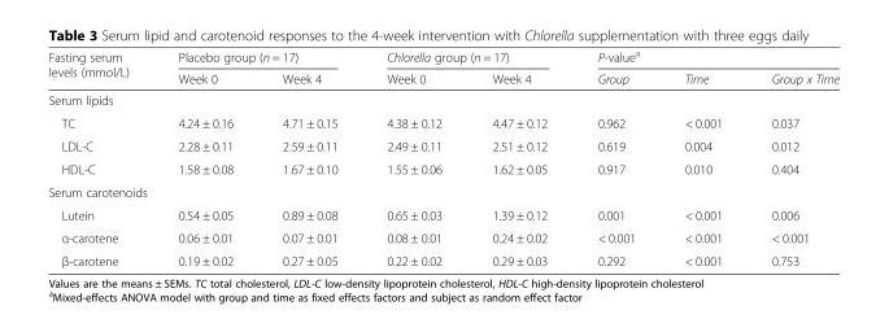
<table><thead><tr><td rowspan="2">Fasting serum levels (mmol/L)</td><td colspan="2">Placebo group (n = 17)</td><td colspan="2">Chlorella group (n = 17)</td><td colspan="3">P-value<sup>a</sup></td></tr><tr><td>Week 0</td><td>Week 4</td><td>Week 0</td><td>Week 4</td><td>Group</td><td>Time</td><td>Group x Time</td></tr></thead><tbody><tr><td colspan="8">Serum lipids</td></tr><tr><td>TC</td><td>4.24 ± 0.16</td><td>4.71 ± 0.15</td><td>4.38 ± 0.12</td><td>4.47 ± 0.12</td><td>0.962</td><td>&lt; 0.001</td><td>0.037</td></tr><tr><td>LDL-C</td><td>2.28 ± 0.11</td><td>2.59 ± 0.11</td><td>2.49 ± 0.11</td><td>2.51 ± 0.12</td><td>0.619</td><td>0.004</td><td>0.012</td></tr><tr><td>HDL-C</td><td>1.58 ± 0.08</td><td>1.67 ± 0.10</td><td>1.55 ± 0.06</td><td>1.62 ± 0.05</td><td>0.917</td><td>0.010</td><td>0.404</td></tr><tr><td colspan="8">Serum carotenoids</td></tr><tr><td>Lutein</td><td>0.54 ± 0.05</td><td>0.89 ± 0.08</td><td>0.65 ± 0.03</td><td>1.39 ± 0.12</td><td>0.001</td><td>&lt; 0.001</td><td>0.006</td></tr><tr><td>α-carotene</td><td>0.06 ± 0.01</td><td>0.07 ± 0.01</td><td>0.08 ± 0.01</td><td>0.24 ± 0.02</td><td>&lt; 0.001</td><td>&lt; 0.001</td><td>&lt; 0.001</td></tr><tr><td>β-carotene</td><td>0.19 ± 0.02</td><td>0.27 ± 0.05</td><td>0.22 ± 0.02</td><td>0.29 ± 0.03</td><td>0.292</td><td>&lt; 0.001</td><td>0.753</td></tr></tbody></table>